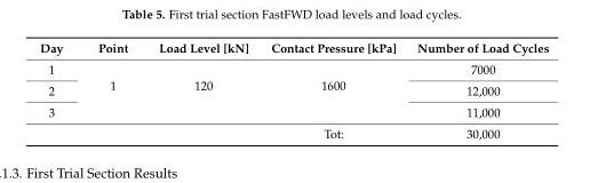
<table><thead><tr><td>Day</td><td>Point</td><td>Load Level [kN]</td><td>Contact Pressure [kPa]</td><td>Number of Load Cycles</td></tr></thead><tbody><tr><td>1</td><td rowspan="3">1</td><td rowspan="3">120</td><td rowspan="3">1600</td><td>7000</td></tr><tr><td>2</td><td>12,000</td></tr><tr><td rowspan="2">3</td><td>11,000</td></tr><tr><td></td><td></td><td>Tot:</td><td>30,000</td></tr></tbody></table>